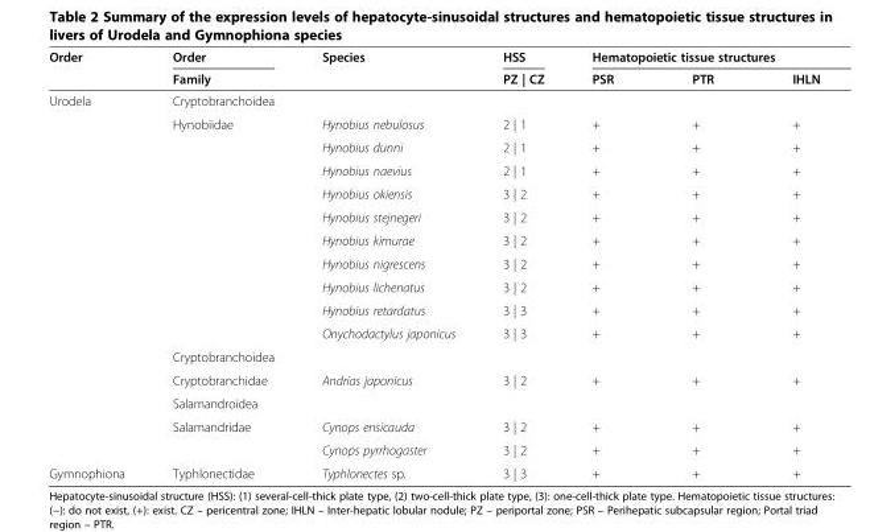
<table><thead><tr><td rowspan="2">Order</td><td rowspan="2">Order Family</td><td rowspan="2">Species</td><td rowspan="2">HSS PZ | CZ</td><td colspan="3">Hematopoietic tissue structures</td></tr><tr><td>PSR</td><td>PTR</td><td>IHLN</td></tr></thead><tbody><tr><td rowspan="16">Urodela</td><td>Cryptobranchoidea</td><td></td><td></td><td></td><td></td><td></td></tr><tr><td>Hynobiidae</td><td>Hynobius nebulosus</td><td>2 | 1</td><td>+</td><td>+</td><td>+</td></tr><tr><td></td><td>Hynobius dunni</td><td>2 | 1</td><td>+</td><td>+</td><td>+</td></tr><tr><td></td><td>Hynobius naevius</td><td>2 | 1</td><td>+</td><td>+</td><td>+</td></tr><tr><td></td><td>Hynobius okiensis</td><td>3 | 2</td><td>+</td><td>+</td><td>+</td></tr><tr><td></td><td>Hynobius stejnegeri</td><td>3 | 2</td><td>+</td><td>+</td><td>+</td></tr><tr><td></td><td>Hynobius kimurae</td><td>3 | 2</td><td>+</td><td>+</td><td>+</td></tr><tr><td></td><td>Hynobius nigrescens</td><td>3 | 2</td><td>+</td><td>+</td><td>+</td></tr><tr><td></td><td>Hynobius lichenatus</td><td>3 | 2</td><td>+</td><td>+</td><td>+</td></tr><tr><td></td><td>Hynobius retardatus</td><td>3 | 3</td><td>+</td><td>+</td><td>+</td></tr><tr><td></td><td>Onychodactylus japonicus</td><td>3 | 3</td><td>+</td><td>+</td><td>+</td></tr><tr><td>Cryptobranchoidea</td><td></td><td></td><td></td><td></td><td></td></tr><tr><td>Cryptobranchidae</td><td>Andrias japonicus</td><td>3 | 2</td><td>+</td><td>+</td><td>+</td></tr><tr><td>Salamandroidea</td><td></td><td></td><td></td><td></td><td></td></tr><tr><td>Salamandridae</td><td>Cynops ensicauda</td><td>3 | 2</td><td>+</td><td>+</td><td>+</td></tr><tr><td></td><td>Cynops pyrrhogaster</td><td>3 | 2</td><td>+</td><td>+</td><td>+</td></tr><tr><td>Gymnophiona</td><td>Typhlonectidae</td><td>Typhlonectes sp.</td><td>3 | 3</td><td>+</td><td>+</td><td>+</td></tr></tbody></table>